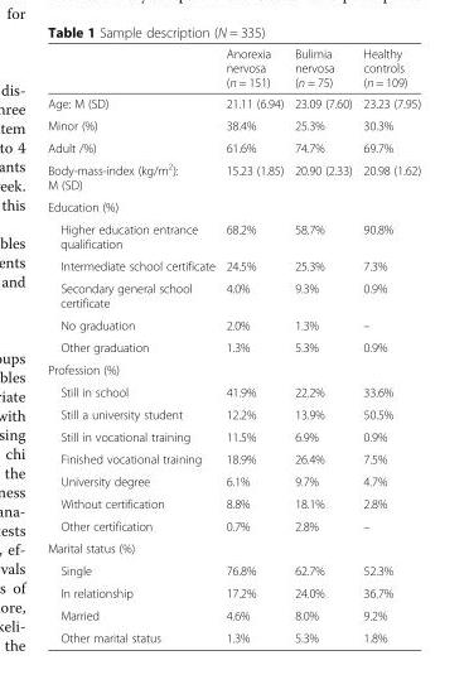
<table><thead><tr><td></td><td>Anorexia nervosa (n = 151)</td><td>Bulimia nervosa (n = 75)</td><td>Healthy controls (n = 109)</td></tr></thead><tbody><tr><td>Age: M (SD)</td><td>21.11 (6.94)</td><td>23.09 (7.60)</td><td>23.23 (7.95)</td></tr><tr><td>Minor (%)</td><td>38.4%</td><td>25.3%</td><td>30.3%</td></tr><tr><td>Adult /%)</td><td>61.6%</td><td>74.7%</td><td>69.7%</td></tr><tr><td>Body-mass-index (kg/m<sup>2</sup>): M (SD)</td><td>15.23 (1.85)</td><td>20.90 (2.33)</td><td>20.98 (1.62)</td></tr><tr><td colspan="4">Education (%)</td></tr><tr><td>Higher education entrance qualification</td><td>68.2%</td><td>58.7%</td><td>90.8%</td></tr><tr><td>Intermediate school certificate</td><td>24.5%</td><td>25.3%</td><td>7.3%</td></tr><tr><td>Secondary general school certificate</td><td>4.0%</td><td>9.3%</td><td>0.9%</td></tr><tr><td>No graduation</td><td>2.0%</td><td>1.3%</td><td>–</td></tr><tr><td>Other graduation</td><td>1.3%</td><td>5.3%</td><td>0.9%</td></tr><tr><td colspan="4">Profession (%)</td></tr><tr><td>Still in school</td><td>41.9%</td><td>22.2%</td><td>33.6%</td></tr><tr><td>Still a university student</td><td>12.2%</td><td>13.9%</td><td>50.5%</td></tr><tr><td>Still in vocational training</td><td>11.5%</td><td>6.9%</td><td>0.9%</td></tr><tr><td>Finished vocational training</td><td>18.9%</td><td>26.4%</td><td>7.5%</td></tr><tr><td>University degree</td><td>6.1%</td><td>9.7%</td><td>4.7%</td></tr><tr><td>Without certification</td><td>8.8%</td><td>18.1%</td><td>2.8%</td></tr><tr><td>Other certification</td><td>0.7%</td><td>2.8%</td><td>–</td></tr><tr><td colspan="4">Marital status (%)</td></tr><tr><td>Single</td><td>76.8%</td><td>62.7%</td><td>52.3%</td></tr><tr><td>In relationship</td><td>17.2%</td><td>24.0%</td><td>36.7%</td></tr><tr><td>Married</td><td>4.6%</td><td>8.0%</td><td>9.2%</td></tr><tr><td>Other marital status</td><td>1.3%</td><td>5.3%</td><td>1.8%</td></tr></tbody></table>